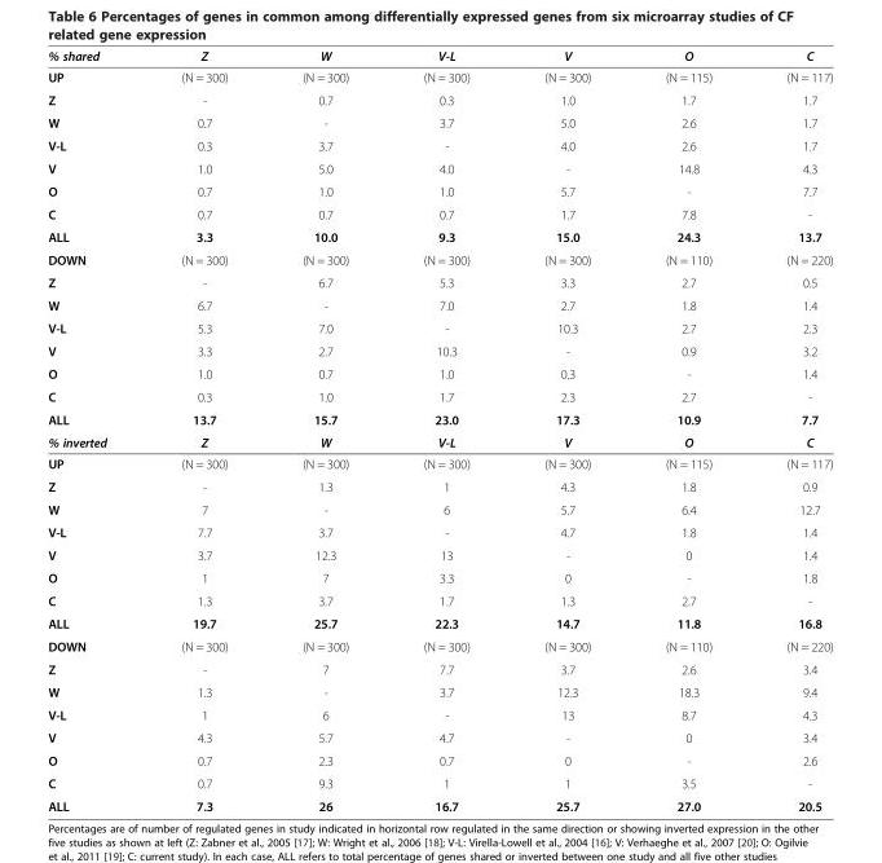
<table><thead><tr><td>% shared</td><td>Z</td><td>W</td><td>V-L</td><td>V</td><td>O</td><td>C</td></tr></thead><tbody><tr><td>UP</td><td>(N = 300)</td><td>(N = 300)</td><td>(N = 300)</td><td>(N = 300)</td><td>(N = 115)</td><td>(N = 117)</td></tr><tr><td>Z</td><td>-</td><td>0.7</td><td>0.3</td><td>1.0</td><td>1.7</td><td>1.7</td></tr><tr><td>W</td><td>0.7</td><td>-</td><td>3.7</td><td>5.0</td><td>2.6</td><td>1.7</td></tr><tr><td>V-L</td><td>0.3</td><td>3.7</td><td>-</td><td>4.0</td><td>2.6</td><td>1.7</td></tr><tr><td>V</td><td>1.0</td><td>5.0</td><td>4.0</td><td>-</td><td>14.8</td><td>4.3</td></tr><tr><td>O</td><td>0.7</td><td>1.0</td><td>1.0</td><td>5.7</td><td>-</td><td>7.7</td></tr><tr><td>C</td><td>0.7</td><td>0.7</td><td>0.7</td><td>1.7</td><td>7.8</td><td>-</td></tr><tr><td>ALL</td><td>3.3</td><td>10.0</td><td>9.3</td><td>15.0</td><td>24.3</td><td>13.7</td></tr><tr><td>DOWN</td><td>(N = 300)</td><td>(N = 300)</td><td>(N = 300)</td><td>(N = 300)</td><td>(N = 110)</td><td>(N = 220)</td></tr><tr><td>Z</td><td>-</td><td>6.7</td><td>5.3</td><td>3.3</td><td>2.7</td><td>0.5</td></tr><tr><td>W</td><td>6.7</td><td>-</td><td>7.0</td><td>2.7</td><td>1.8</td><td>1.4</td></tr><tr><td>V-L</td><td>5.3</td><td>7.0</td><td>-</td><td>10.3</td><td>2.7</td><td>2.3</td></tr><tr><td>V</td><td>3.3</td><td>2.7</td><td>10.3</td><td>-</td><td>0.9</td><td>3.2</td></tr><tr><td>O</td><td>1.0</td><td>0.7</td><td>1.0</td><td>0.3</td><td>-</td><td>1.4</td></tr><tr><td>C</td><td>0.3</td><td>1.0</td><td>1.7</td><td>2.3</td><td>2.7</td><td>-</td></tr><tr><td>ALL</td><td>13.7</td><td>15.7</td><td>23.0</td><td>17.3</td><td>10.9</td><td>7.7</td></tr><tr><td>% inverted</td><td>Z</td><td>W</td><td>V-L</td><td>V</td><td>O</td><td>C</td></tr><tr><td>UP</td><td>(N = 300)</td><td>(N = 300)</td><td>(N = 300)</td><td>(N = 300)</td><td>(N = 115)</td><td>(N = 117)</td></tr><tr><td>Z</td><td>-</td><td>1.3</td><td>1</td><td>4.3</td><td>1.8</td><td>0.9</td></tr><tr><td>W</td><td>7</td><td>-</td><td>6</td><td>5.7</td><td>6.4</td><td>12.7</td></tr><tr><td>V-L</td><td>7.7</td><td>3.7</td><td>-</td><td>4.7</td><td>1.8</td><td>1.4</td></tr><tr><td>V</td><td>3.7</td><td>12.3</td><td>13</td><td>-</td><td>0</td><td>1.4</td></tr><tr><td>O</td><td>1</td><td>7</td><td>3.3</td><td>0</td><td>-</td><td>1.8</td></tr><tr><td>C</td><td>1.3</td><td>3.7</td><td>1.7</td><td>1.3</td><td>2.7</td><td>-</td></tr><tr><td>ALL</td><td>19.7</td><td>25.7</td><td>22.3</td><td>14.7</td><td>11.8</td><td>16.8</td></tr><tr><td>DOWN</td><td>(N = 300)</td><td>(N = 300)</td><td>(N = 300)</td><td>(N = 300)</td><td>(N = 110)</td><td>(N = 220)</td></tr><tr><td>Z</td><td>-</td><td>7</td><td>7.7</td><td>3.7</td><td>2.6</td><td>3.4</td></tr><tr><td>W</td><td>1.3</td><td>-</td><td>3.7</td><td>12.3</td><td>18.3</td><td>9.4</td></tr><tr><td>V-L</td><td>1</td><td>6</td><td>-</td><td>13</td><td>8.7</td><td>4.3</td></tr><tr><td>V</td><td>4.3</td><td>5.7</td><td>4.7</td><td>-</td><td>0</td><td>3.4</td></tr><tr><td>O</td><td>0.7</td><td>2.3</td><td>0.7</td><td>0</td><td>-</td><td>2.6</td></tr><tr><td>C</td><td>0.7</td><td>9.3</td><td>1</td><td>1</td><td>3.5</td><td>-</td></tr><tr><td>ALL</td><td>7.3</td><td>26</td><td>16.7</td><td>25.7</td><td>27.0</td><td>20.5</td></tr></tbody></table>